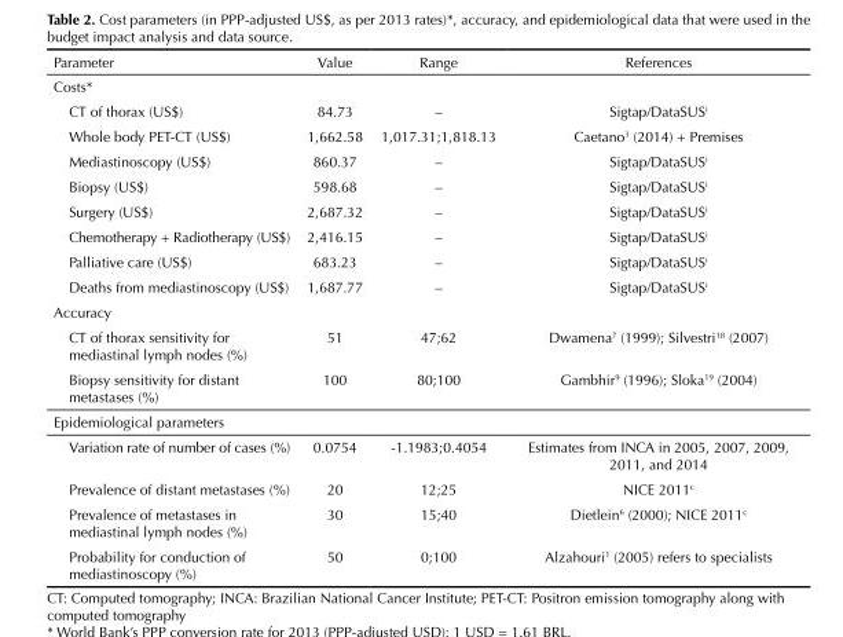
<table><thead><tr><td>Parameter</td><td>Value</td><td>Range</td><td>References</td></tr></thead><tbody><tr><td colspan="4">Costs*</td></tr><tr><td>CT of thorax (US$)</td><td>84.73</td><td>–</td><td>Sigtap/DataSUS<sup>i</sup></td></tr><tr><td>Whole body PET-CT (US$)</td><td>1,662.58</td><td>1,017.31;1,818.13</td><td>Caetano<sup>3</sup> (2014) + Premises</td></tr><tr><td>Mediastinoscopy (US$)</td><td>860.37</td><td>–</td><td>Sigtap/DataSUS<sup>i</sup></td></tr><tr><td>Biopsy (US$)</td><td>598.68</td><td>–</td><td>Sigtap/DataSUS<sup>i</sup></td></tr><tr><td>Surgery (US$)</td><td>2,687.32</td><td>–</td><td>Sigtap/DataSUS<sup>i</sup></td></tr><tr><td>Chemotherapy + Radiotherapy (US$)</td><td>2,416.15</td><td>–</td><td>Sigtap/DataSUS<sup>i</sup></td></tr><tr><td>Palliative care (US$)</td><td>683.23</td><td>–</td><td>Sigtap/DataSUS<sup>i</sup></td></tr><tr><td>Deaths from mediastinoscopy (US$)</td><td>1,687.77</td><td>–</td><td>Sigtap/DataSUS<sup>i</sup></td></tr><tr><td colspan="4">Accuracy</td></tr><tr><td>CT of thorax sensitivity for mediastinal lymph nodes (%)</td><td>51</td><td>47;62</td><td>Dwamena<sup>7</sup> (1999); Silvestri<sup>18</sup> (2007)</td></tr><tr><td>Biopsy sensitivity for distant metastases (%)</td><td>100</td><td>80;100</td><td>Gambhir<sup>9</sup> (1996); Sloka<sup>19</sup> (2004)</td></tr><tr><td colspan="4">Epidemiological parameters</td></tr><tr><td>Variation rate of number of cases (%)</td><td>0.0754</td><td>-1.1983;0.4054</td><td>Estimates from INCA in 2005, 2007, 2009, 2011, and 2014</td></tr><tr><td>Prevalence of distant metastases (%)</td><td>20</td><td>12;25</td><td>NICE 2011<sup>c</sup></td></tr><tr><td>Prevalence of metastases in mediastinal lymph nodes (%)</td><td>30</td><td>15;40</td><td>Dietlein<sup>6</sup> (2000); NICE 2011<sup>c</sup></td></tr><tr><td>Probability for conduction of mediastinoscopy (%)</td><td>50</td><td>0;100</td><td>Alzahouri<sup>1</sup> (2005) refers to specialists</td></tr></tbody></table>